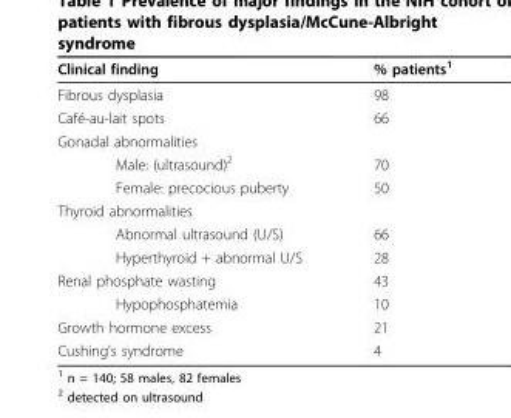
<table><thead><tr><td>Clinical finding</td><td>% patients<sup>1</sup></td></tr></thead><tbody><tr><td>Fibrous dysplasia</td><td>98</td></tr><tr><td>Café-au-lait spots</td><td>66</td></tr><tr><td colspan="2">Gonadal abnormalities</td></tr><tr><td>Male: (ultrasound)<sup>2</sup></td><td>70</td></tr><tr><td>Female: precocious puberty</td><td>50</td></tr><tr><td colspan="2">Thyroid abnormalities</td></tr><tr><td>Abnormal ultrasound (U/S)</td><td>66</td></tr><tr><td>Hyperthyroid + abnormal U/S</td><td>28</td></tr><tr><td>Renal phosphate wasting</td><td>43</td></tr><tr><td>Hypophosphatemia</td><td>10</td></tr><tr><td>Growth hormone excess</td><td>21</td></tr><tr><td>Cushing’s syndrome</td><td>4</td></tr></tbody></table>